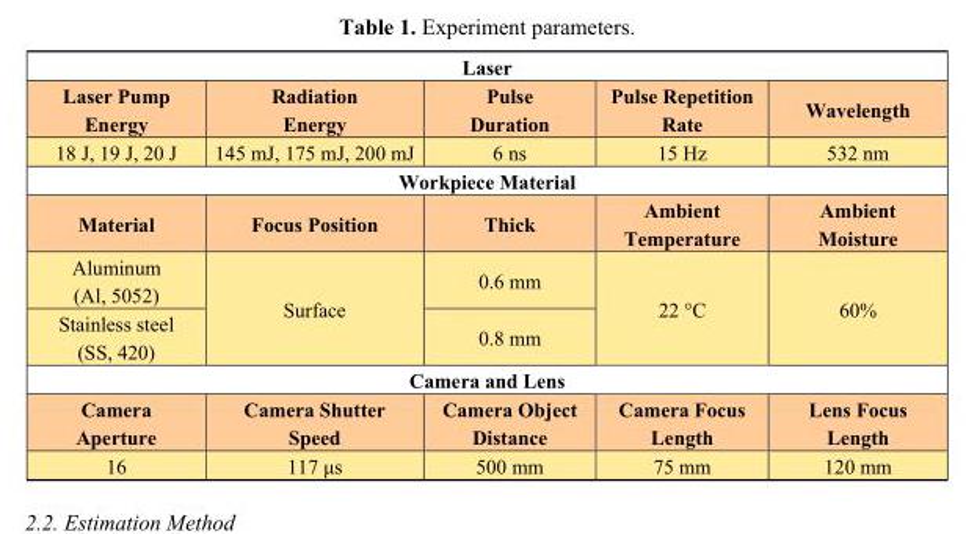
<table><thead><tr><td colspan="5">Laser</td></tr><tr><td>Laser Pump Energy</td><td>Radiation Energy</td><td>Pulse Duration</td><td>Pulse Repetition Rate</td><td>Wavelength</td></tr></thead><tbody><tr><td>18 J, 19 J, 20 J</td><td>145 mJ, 175 mJ, 200 mJ</td><td>6 ns</td><td>15 Hz</td><td>532 nm</td></tr><tr><td colspan="5">Workpiece Material</td></tr><tr><td>Material</td><td>Focus Position</td><td>Thick</td><td>Ambient Temperature</td><td>Ambient Moisture</td></tr><tr><td>Aluminum (Al, 5052)</td><td rowspan="2">Surface</td><td>0.6 mm</td><td rowspan="2">22 °C</td><td rowspan="2">60%</td></tr><tr><td>Stainless steel (SS, 420)</td><td>0.8 mm</td></tr><tr><td colspan="5">Camera and Lens</td></tr><tr><td>Camera Aperture</td><td>Camera Shutter Speed</td><td>Camera Object Distance</td><td>Camera Focus Length</td><td>Lens Focus Length</td></tr><tr><td>16</td><td>117 μs</td><td>500 mm</td><td>75 mm</td><td>120 mm</td></tr></tbody></table>